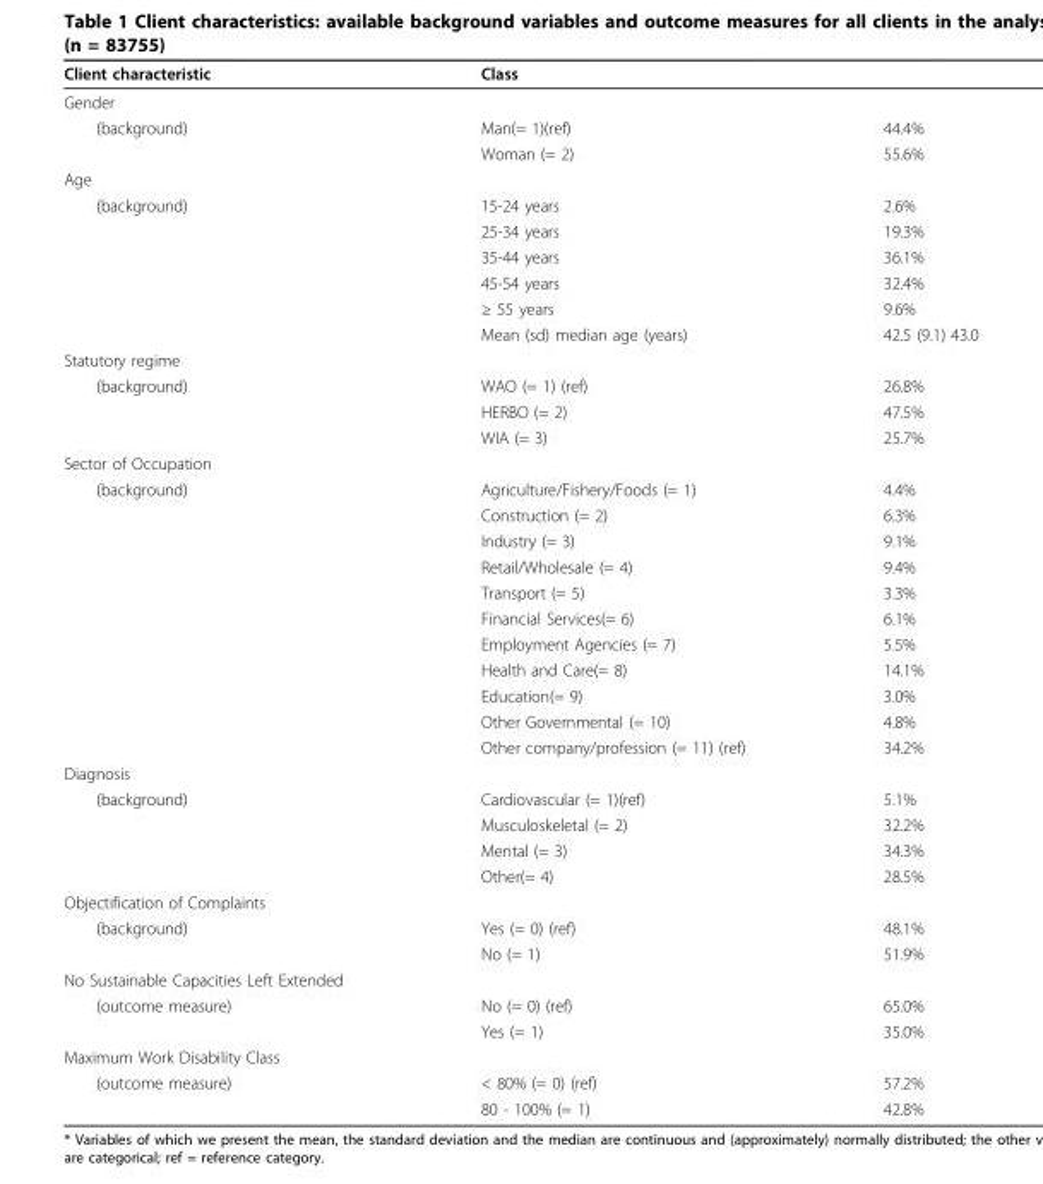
<table><thead><tr><td>Client characteristic</td><td>Class</td><td></td></tr></thead><tbody><tr><td colspan="3">Gender</td></tr><tr><td rowspan="2">(background)</td><td>Man(= 1)(ref)</td><td>44.4%</td></tr><tr><td>Woman (= 2)</td><td>55.6%</td></tr><tr><td colspan="3">Age</td></tr><tr><td rowspan="6">(background)</td><td>15-24 years</td><td>2.6%</td></tr><tr><td>25-34 years</td><td>19.3%</td></tr><tr><td>35-44 years</td><td>36.1%</td></tr><tr><td>45-54 years</td><td>32.4%</td></tr><tr><td>≥ 55 years</td><td>9.6%</td></tr><tr><td>Mean (sd) median age (years)</td><td>42.5 (9.1) 43.0</td></tr><tr><td colspan="3">Statutory regime</td></tr><tr><td rowspan="3">(background)</td><td>WAO (= 1) (ref)</td><td>26.8%</td></tr><tr><td>HERBO (= 2)</td><td>47.5%</td></tr><tr><td>WIA (= 3)</td><td>25.7%</td></tr><tr><td colspan="3">Sector of Occupation</td></tr><tr><td rowspan="11">(background)</td><td>Agriculture/Fishery/Foods (= 1)</td><td>4.4%</td></tr><tr><td>Construction (= 2)</td><td>6.3%</td></tr><tr><td>Industry (= 3)</td><td>9.1%</td></tr><tr><td>Retail/Wholesale (= 4)</td><td>9.4%</td></tr><tr><td>Transport (= 5)</td><td>3.3%</td></tr><tr><td>Financial Services(= 6)</td><td>6.1%</td></tr><tr><td>Employment Agencies (= 7)</td><td>5.5%</td></tr><tr><td>Health and Care(= 8)</td><td>14.1%</td></tr><tr><td>Education(= 9)</td><td>3.0%</td></tr><tr><td>Other Governmental (= 10)</td><td>4.8%</td></tr><tr><td>Other company/profession (= 11) (ref)</td><td>34.2%</td></tr><tr><td colspan="3">Diagnosis</td></tr><tr><td rowspan="4">(background)</td><td>Cardiovascular (= 1)(ref)</td><td>5.1%</td></tr><tr><td>Musculoskeletal (= 2)</td><td>32.2%</td></tr><tr><td>Mental (= 3)</td><td>34.3%</td></tr><tr><td>Other(= 4)</td><td>28.5%</td></tr><tr><td colspan="3">Objectification of Complaints</td></tr><tr><td rowspan="2">(background)</td><td>Yes (= 0) (ref)</td><td>48.1%</td></tr><tr><td>No (= 1)</td><td>51.9%</td></tr><tr><td colspan="3">No Sustainable Capacities Left Extended</td></tr><tr><td rowspan="2">(outcome measure)</td><td>No (= 0) (ref)</td><td>65.0%</td></tr><tr><td>Yes (= 1)</td><td>35.0%</td></tr><tr><td colspan="3">Maximum Work Disability Class</td></tr><tr><td rowspan="2">(outcome measure)</td><td>&lt; 80% (= 0) (ref)</td><td>57.2%</td></tr><tr><td>80 - 100% (= 1)</td><td>42.8%</td></tr></tbody></table>